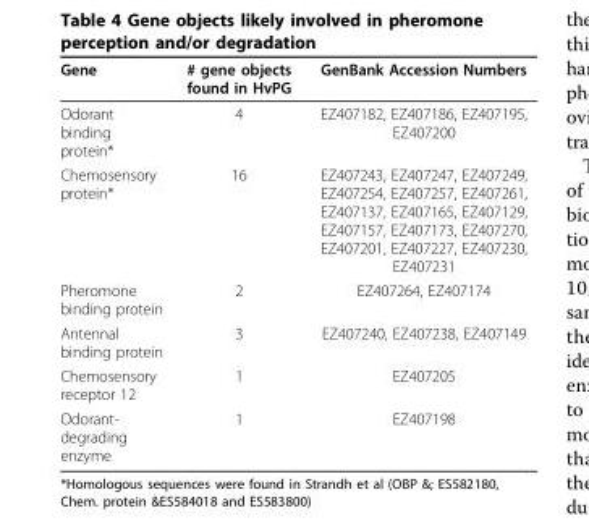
<table><thead><tr><td>Gene</td><td># gene objects found in HvPG</td><td>GenBank Accession Numbers</td></tr></thead><tbody><tr><td>Odorant binding protein*</td><td>4</td><td>EZ407182, EZ407186, EZ407195, EZ407200</td></tr><tr><td>Chemosensory protein*</td><td>16</td><td>EZ407243, EZ407247, EZ407249, EZ407254, EZ407257, EZ407261, EZ407137, EZ407165, EZ407129, EZ407157, EZ407173, EZ407270, EZ407201, EZ407227, EZ407230, EZ407231</td></tr><tr><td>Pheromone binding protein</td><td>2</td><td>EZ407264, EZ407174</td></tr><tr><td>Antennal binding protein</td><td>3</td><td>EZ407240, EZ407238, EZ407149</td></tr><tr><td>Chemosensory receptor 12</td><td>1</td><td>EZ407205</td></tr><tr><td>Odorant- degrading enzyme</td><td>1</td><td>EZ407198</td></tr></tbody></table>